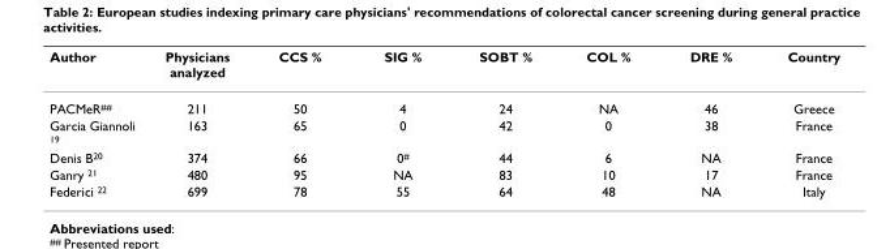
<table><thead><tr><td>Author</td><td>Physicians analyzed</td><td>CCS %</td><td>SIG %</td><td>SOBT %</td><td>COL %</td><td>DRE %</td><td>Country</td></tr></thead><tbody><tr><td>PACMeR##</td><td>211</td><td>50</td><td>4</td><td>24</td><td>NA</td><td>46</td><td>Greece</td></tr><tr><td>Garcia Giannoli 19</td><td>163</td><td>65</td><td>0</td><td>42</td><td>0</td><td>38</td><td>France</td></tr><tr><td>Denis B20</td><td>374</td><td>66</td><td>0#</td><td>44</td><td>6</td><td>NA</td><td>France</td></tr><tr><td>Ganry 21</td><td>480</td><td>95</td><td>NA</td><td>83</td><td>10</td><td>17</td><td>France</td></tr><tr><td>Federici 22</td><td>699</td><td>78</td><td>55</td><td>64</td><td>48</td><td>NA</td><td>Italy</td></tr></tbody></table>